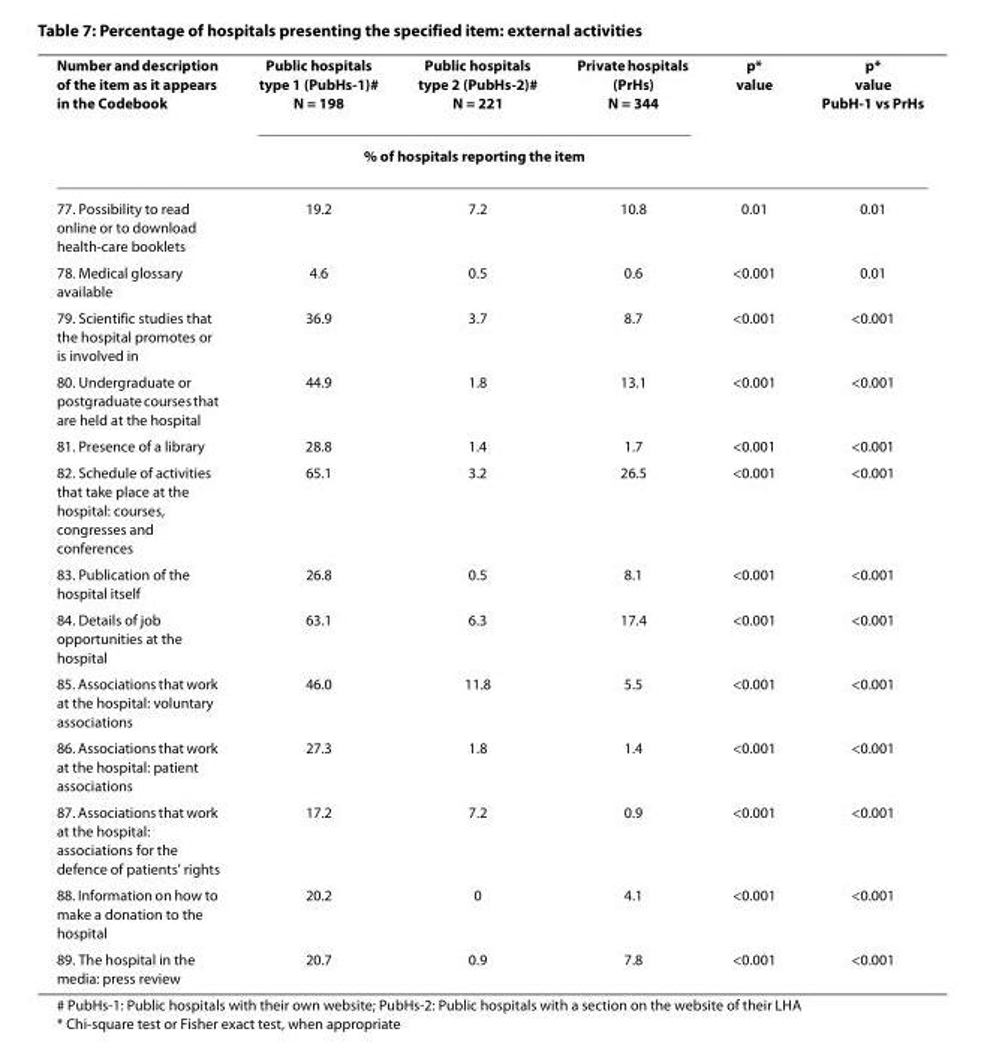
<table><thead><tr><td rowspan="2">Number and description of the item as it appears in the Codebook</td><td>Public hospitals type 1 (PubHs-1)# N = 198</td><td>Public hospitals type 2 (PubHs-2)# N = 221</td><td>Private hospitals (PrHs) N = 344</td><td rowspan="2">p* value</td><td rowspan="2">p* value PubH-1 vs PrHs</td></tr><tr><td colspan="3">% of hospitals reporting the item</td></tr></thead><tbody><tr><td>77. Possibility to read online or to download health-care booklets</td><td>19.2</td><td>7.2</td><td>10.8</td><td>0.01</td><td>0.01</td></tr><tr><td>78. Medical glossary available</td><td>4.6</td><td>0.5</td><td>0.6</td><td>&lt;0.001</td><td>0.01</td></tr><tr><td>79. Scientific studies that the hospital promotes or is involved in</td><td>36.9</td><td>3.7</td><td>8.7</td><td>&lt;0.001</td><td>&lt;0.001</td></tr><tr><td>80. Undergraduate or postgraduate courses that are held at the hospital</td><td>44.9</td><td>1.8</td><td>13.1</td><td>&lt;0.001</td><td>&lt;0.001</td></tr><tr><td>81. Presence of a library</td><td>28.8</td><td>1.4</td><td>1.7</td><td>&lt;0.001</td><td>&lt;0.001</td></tr><tr><td>82. Schedule of activities that take place at the hospital: courses, congresses and conferences</td><td>65.1</td><td>3.2</td><td>26.5</td><td>&lt;0.001</td><td>&lt;0.001</td></tr><tr><td>83. Publication of the hospital itself</td><td>26.8</td><td>0.5</td><td>8.1</td><td>&lt;0.001</td><td>&lt;0.001</td></tr><tr><td>84. Details of job opportunities at the hospital</td><td>63.1</td><td>6.3</td><td>17.4</td><td>&lt;0.001</td><td>&lt;0.001</td></tr><tr><td>85. Associations that work at the hospital: voluntary associations</td><td>46.0</td><td>11.8</td><td>5.5</td><td>&lt;0.001</td><td>&lt;0.001</td></tr><tr><td>86. Associations that work at the hospital: patient associations</td><td>27.3</td><td>1.8</td><td>1.4</td><td>&lt;0.001</td><td>&lt;0.001</td></tr><tr><td>87. Associations that work at the hospital: associations for the defence of patients&#x27; rights</td><td>17.2</td><td>7.2</td><td>0.9</td><td>&lt;0.001</td><td>&lt;0.001</td></tr><tr><td>88. Information on how to make a donation to the hospital</td><td>20.2</td><td>0</td><td>4.1</td><td>&lt;0.001</td><td>&lt;0.001</td></tr><tr><td>89. The hospital in the media: press review</td><td>20.7</td><td>0.9</td><td>7.8</td><td>&lt;0.001</td><td>&lt;0.001</td></tr></tbody></table>